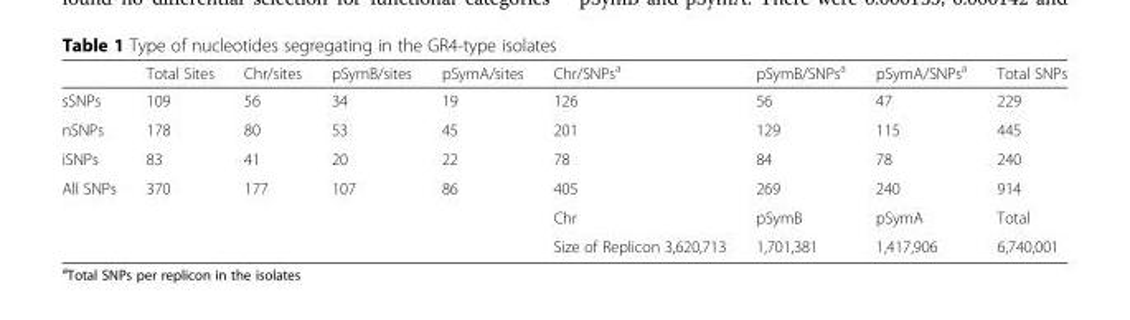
<table><thead><tr><td></td><td>Total Sites</td><td>Chr/sites</td><td>pSymB/sites</td><td>pSymA/sites</td><td>Chr/SNPs<sup>a</sup></td><td>pSymB/SNPs<sup>a</sup></td><td>pSymA/SNPs<sup>a</sup></td><td>Total SNPs</td></tr></thead><tbody><tr><td>sSNPs</td><td>109</td><td>56</td><td>34</td><td>19</td><td>126</td><td>56</td><td>47</td><td>229</td></tr><tr><td>nSNPs</td><td>178</td><td>80</td><td>53</td><td>45</td><td>201</td><td>129</td><td>115</td><td>445</td></tr><tr><td>iSNPs</td><td>83</td><td>41</td><td>20</td><td>22</td><td>78</td><td>84</td><td>78</td><td>240</td></tr><tr><td rowspan="3">All SNPs</td><td>370</td><td>177</td><td>107</td><td>86</td><td>405</td><td>269</td><td>240</td><td>914</td></tr><tr><td></td><td></td><td></td><td></td><td>Chr</td><td>pSymB</td><td>pSymA</td><td>Total</td></tr><tr><td></td><td></td><td></td><td></td><td>Size of Replicon 3,620,713</td><td>1,701,381</td><td>1,417,906</td><td>6,740,001</td></tr></tbody></table>